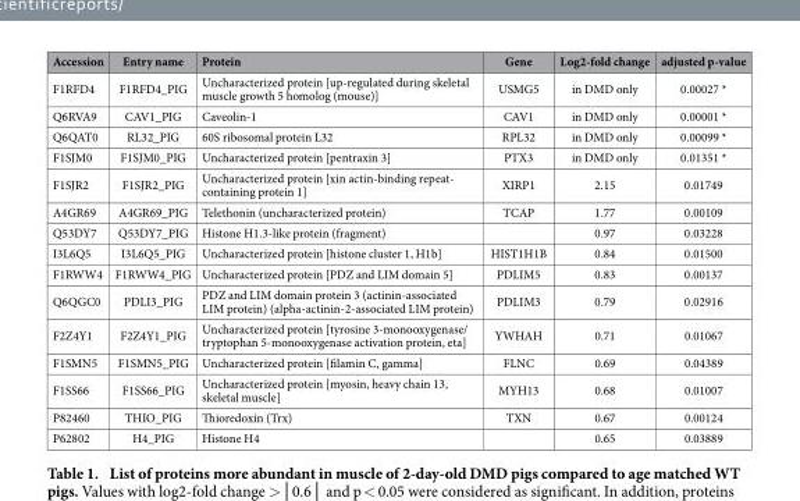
<table><thead><tr><td>Accession</td><td>Entry name</td><td>Protein</td><td>Gene</td><td>Log2-fold change</td><td>adjusted p-value</td></tr></thead><tbody><tr><td>F1RFD4</td><td>F1RFD4_PIG</td><td>Uncharacterized protein [up-regulated during skeletal muscle growth 5 homolog (mouse)]</td><td>USMG5</td><td>in DMD only</td><td>0.00027 *</td></tr><tr><td>Q6RVA9</td><td>CAV1_PIG</td><td>Caveolin-1</td><td>CAV1</td><td>in DMD only</td><td>0.00001 *</td></tr><tr><td>Q6QAT0</td><td>RL32_PIG</td><td>60S ribosomal protein L32</td><td>RPL32</td><td>in DMD only</td><td>0.00099 *</td></tr><tr><td>F1SJM0</td><td>F1SJM0_PIG</td><td>Uncharacterized protein [pentraxin 3]</td><td>PTX3</td><td>in DMD only</td><td>0.01351 *</td></tr><tr><td>F1SJR2</td><td>F1SJR2_PIG</td><td>Uncharacterized protein [xin actin-binding repeat- containing protein 1]</td><td>XIRP1</td><td>2.15</td><td>0.01749</td></tr><tr><td>A4GR69</td><td>A4GR69_PIG</td><td>Telethonin (uncharacterized protein)</td><td>TCAP</td><td>1.77</td><td>0.00109</td></tr><tr><td>Q53DY7</td><td>Q53DY7_PIG</td><td>Histone H1.3-like protein (fragment)</td><td></td><td>0.97</td><td>0.03228</td></tr><tr><td>I3L6Q5</td><td>I3L6Q5_PIG</td><td>Uncharacterized protein [histone cluster 1, H1b]</td><td>HIST1H1B</td><td>0.84</td><td>0.01500</td></tr><tr><td>F1RWW4</td><td>F1RWW4_PIG</td><td>Uncharacterized protein [PDZ and LIM domain 5]</td><td>PDLIM5</td><td>0.83</td><td>0.00137</td></tr><tr><td>Q6QGC0</td><td>PDLI3_PIG</td><td>PDZ and LIM domain protein 3 (actinin-associated LIM protein) (alpha-actinin-2-associated LIM protein)</td><td>PDLIM3</td><td>0.79</td><td>0.02916</td></tr><tr><td>F2Z4Y1</td><td>F2Z4Y1_PIG</td><td>Uncharacterized protein [tyrosine 3-monooxygenase/ tryptophan 5-monooxygenase activation protein, eta]</td><td>YWHAH</td><td>0.71</td><td>0.01067</td></tr><tr><td>F1SMN5</td><td>F1SMN5_PIG</td><td>Uncharacterized protein [filamin C, gamma]</td><td>FLNC</td><td>0.69</td><td>0.04389</td></tr><tr><td>F1SS66</td><td>F1SS66_PIG</td><td>Uncharacterized protein [myosin, heavy chain 13, skeletal muscle]</td><td>MYH13</td><td>0.68</td><td>0.01007</td></tr><tr><td>P82460</td><td>THIO_PIG</td><td>Thioredoxin (Trx)</td><td>TXN</td><td>0.67</td><td>0.00124</td></tr><tr><td>P62802</td><td>H4_PIG</td><td>Histone H4</td><td></td><td>0.65</td><td>0.03889</td></tr></tbody></table>